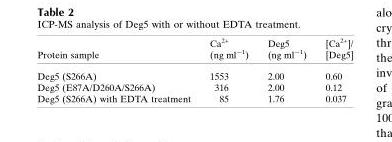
<table><thead><tr><td>Protein sample</td><td>Ca<sup>2+</sup> (ng ml<sup>−1</sup>)</td><td>Deg5 (ng ml<sup>−1</sup>)</td><td>[Ca<sup>2+</sup>]/ [Deg5]</td></tr></thead><tbody><tr><td>Deg5 (S266A)</td><td>1553</td><td>2.00</td><td>0.60</td></tr><tr><td>Deg5 (E87A/D260A/S266A)</td><td>316</td><td>2.00</td><td>0.12</td></tr><tr><td>Deg5 (S266A) with EDTA treatment</td><td>85</td><td>1.76</td><td>0.037</td></tr></tbody></table>